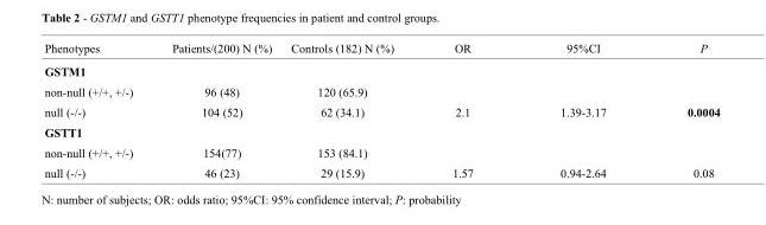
<table><thead><tr><td>Phenotypes</td><td>Patients/(200) N (%)</td><td>Controls (182) N (%)</td><td>OR</td><td>95%CI</td><td>P</td></tr></thead><tbody><tr><td colspan="6">GSTM1</td></tr><tr><td>non-null (+/+, +/-)</td><td>96 (48)</td><td>120 (65.9)</td><td></td><td></td><td></td></tr><tr><td>null (-/-)</td><td>104 (52)</td><td>62 (34.1)</td><td>2.1</td><td>1.39-3.17</td><td>0.0004</td></tr><tr><td colspan="6">GSTT1</td></tr><tr><td>non-null (+/+, +/-)</td><td>154(77)</td><td>153 (84.1)</td><td></td><td></td><td></td></tr><tr><td>null (-/-)</td><td>46 (23)</td><td>29 (15.9)</td><td>1.57</td><td>0.94-2.64</td><td>0.08</td></tr></tbody></table>